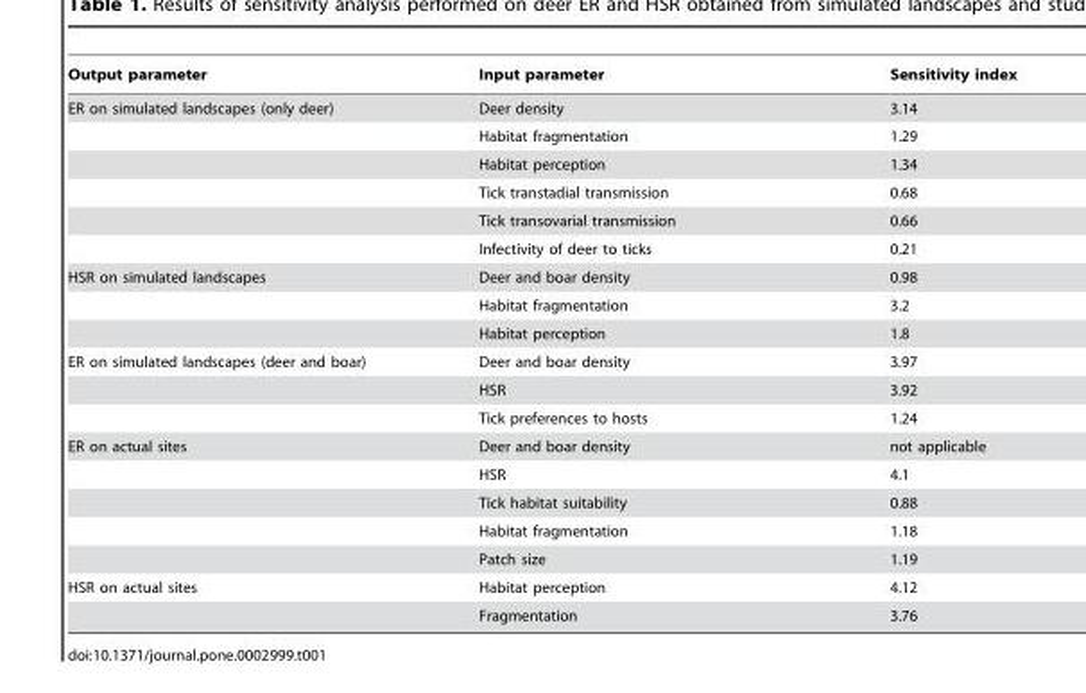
<table><thead><tr><td>Output parameter</td><td>Input parameter</td><td>Sensitivity index</td></tr></thead><tbody><tr><td rowspan="6">ER on simulated landscapes (only deer)</td><td>Deer density</td><td>3.14</td></tr><tr><td>Habitat fragmentation</td><td>1.29</td></tr><tr><td>Habitat perception</td><td>1.34</td></tr><tr><td>Tick transtadial transmission</td><td>0.68</td></tr><tr><td>Tick transovarial transmission</td><td>0.66</td></tr><tr><td>Infectivity of deer to ticks</td><td>0.21</td></tr><tr><td rowspan="3">HSR on simulated landscapes</td><td>Deer and boar density</td><td>0.98</td></tr><tr><td>Habitat fragmentation</td><td>3.2</td></tr><tr><td>Habitat perception</td><td>1.8</td></tr><tr><td rowspan="3">ER on simulated landscapes (deer and boar)</td><td>Deer and boar density</td><td>3.97</td></tr><tr><td>HSR</td><td>3.92</td></tr><tr><td>Tick preferences to hosts</td><td>1.24</td></tr><tr><td rowspan="5">ER on actual sites</td><td>Deer and boar density</td><td>not applicable</td></tr><tr><td>HSR</td><td>4.1</td></tr><tr><td>Tick habitat suitability</td><td>0.88</td></tr><tr><td>Habitat fragmentation</td><td>1.18</td></tr><tr><td>Patch size</td><td>1.19</td></tr><tr><td rowspan="2">HSR on actual sites</td><td>Habitat perception</td><td>4.12</td></tr><tr><td>Fragmentation</td><td>3.76</td></tr></tbody></table>